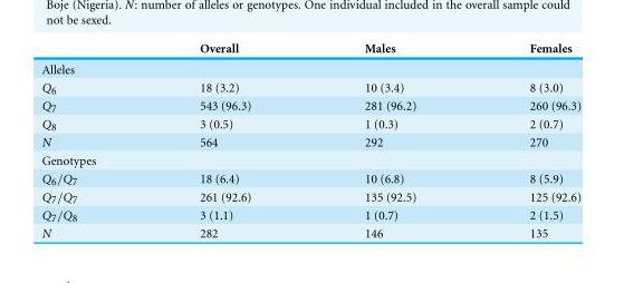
<table><thead><tr><td></td><td>Overall</td><td>Males</td><td>Females</td></tr></thead><tbody><tr><td colspan="4">Alleles</td></tr><tr><td>Q<sub>6</sub></td><td>18 (3.2)</td><td>10 (3.4)</td><td>8 (3.0)</td></tr><tr><td>Q<sub>7</sub></td><td>543 (96.3)</td><td>281 (96.2)</td><td>260 (96.3)</td></tr><tr><td>Q<sub>8</sub></td><td>3 (0.5)</td><td>1 (0.3)</td><td>2 (0.7)</td></tr><tr><td>N</td><td>564</td><td>292</td><td>270</td></tr><tr><td colspan="4">Genotypes</td></tr><tr><td>Q<sub>6</sub>/Q<sub>7</sub></td><td>18 (6.4)</td><td>10 (6.8)</td><td>8 (5.9)</td></tr><tr><td>Q<sub>7</sub>/Q<sub>7</sub></td><td>261 (92.6)</td><td>135 (92.5)</td><td>125 (92.6)</td></tr><tr><td>Q<sub>7</sub>/Q<sub>8</sub></td><td>3 (1.1)</td><td>1 (0.7)</td><td>2 (1.5)</td></tr><tr><td>N</td><td>282</td><td>146</td><td>135</td></tr></tbody></table>